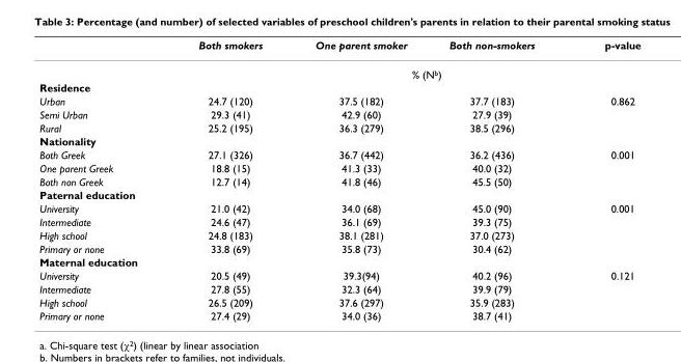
<table><thead><tr><td></td><td>Both smokers</td><td>One parent smoker</td><td>Both non-smokers</td><td>p-value</td></tr></thead><tbody><tr><td></td><td colspan="4">% (N<sup>b</sup>)</td></tr><tr><td colspan="5">Residence</td></tr><tr><td>Urban</td><td>24.7 (120)</td><td>37.5 (182)</td><td>37.7 (183)</td><td>0.862</td></tr><tr><td>Semi Urban</td><td>29.3 (41)</td><td>42.9 (60)</td><td>27.9 (39)</td><td></td></tr><tr><td>Rural</td><td>25.2 (195)</td><td>36.3 (279)</td><td>38.5 (296)</td><td></td></tr><tr><td colspan="5">Nationality</td></tr><tr><td>Both Greek</td><td>27.1 (326)</td><td>36.7 (442)</td><td>36.2 (436)</td><td>0.001</td></tr><tr><td>One parent Greek</td><td>18.8 (15)</td><td>41.3 (33)</td><td>40.0 (32)</td><td></td></tr><tr><td>Both non Greek</td><td>12.7 (14)</td><td>41.8 (46)</td><td>45.5 (50)</td><td></td></tr><tr><td colspan="5">Paternal education</td></tr><tr><td>University</td><td>21.0 (42)</td><td>34.0 (68)</td><td>45.0 (90)</td><td>0.001</td></tr><tr><td>Intermediate</td><td>24.6 (47)</td><td>36.1 (69)</td><td>39.3 (75)</td><td></td></tr><tr><td>High school</td><td>24.8 (183)</td><td>38.1 (281)</td><td>37.0 (273)</td><td></td></tr><tr><td>Primary or none</td><td>33.8 (69)</td><td>35.8 (73)</td><td>30.4 (62)</td><td></td></tr><tr><td colspan="5">Maternal education</td></tr><tr><td>University</td><td>20.5 (49)</td><td>39.3(94)</td><td>40.2 (96)</td><td>0.121</td></tr><tr><td>Intermediate</td><td>27.8 (55)</td><td>32.3 (64)</td><td>39.9 (79)</td><td></td></tr><tr><td>High school</td><td>26.5 (209)</td><td>37.6 (297)</td><td>35.9 (283)</td><td></td></tr><tr><td>Primary or none</td><td>27.4 (29)</td><td>34.0 (36)</td><td>38.7 (41)</td><td></td></tr></tbody></table>